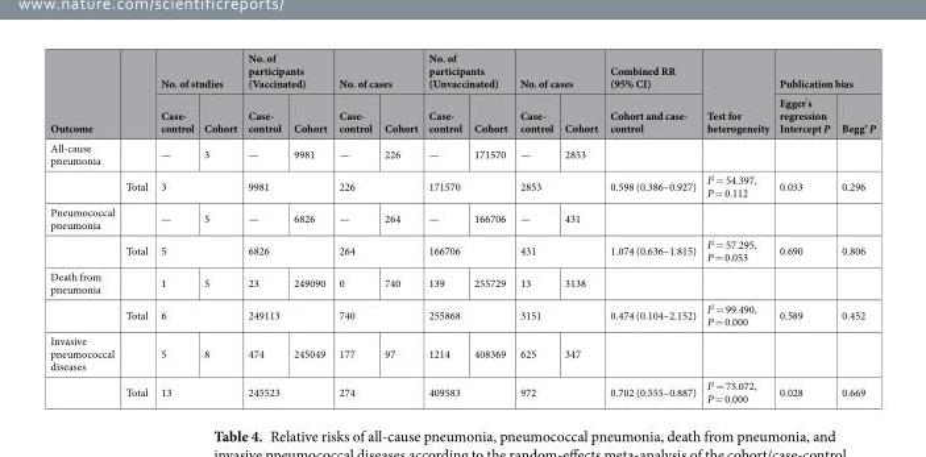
<table><thead><tr><td rowspan="2">Outcome</td><td rowspan="2"></td><td colspan="2">No. of studies</td><td colspan="2">No. of participants (Vaccinated)</td><td colspan="2">No. of cases</td><td colspan="2">No. of participants (Unvaccinated)</td><td colspan="2">No. of cases</td><td rowspan="2">Combined RR (95% CI) Cohort and case- control</td><td rowspan="2">Test for heterogeneity</td><td colspan="2">Publication bias</td></tr><tr><td>Case- control</td><td>Cohort</td><td>Case- control</td><td>Cohort</td><td>Case- control</td><td>Cohort</td><td>Case- control</td><td>Cohort</td><td>Case- control</td><td>Cohort</td><td>Egger<sup>’</sup>s regression Intercept P</td><td>Begg’ P</td></tr></thead><tbody><tr><td rowspan="2">All-cause pneumonia</td><td></td><td>—</td><td>3</td><td>—</td><td>9981</td><td>—</td><td>226</td><td>—</td><td>171570</td><td>—</td><td>2853</td><td></td><td></td><td></td><td></td></tr><tr><td>Total</td><td colspan="2">3</td><td colspan="2">9981</td><td colspan="2">226</td><td colspan="2">171570</td><td colspan="2">2853</td><td>0.598 (0.386–0.927)</td><td>I<sup>2</sup> = 54.397, P = 0.112</td><td>0.033</td><td>0.296</td></tr><tr><td rowspan="2">Pneumococcal pneumonia</td><td></td><td>—</td><td>5</td><td>—</td><td>6826</td><td>—</td><td>264</td><td>—</td><td>166706</td><td>—</td><td>431</td><td></td><td></td><td></td><td></td></tr><tr><td>Total</td><td colspan="2">5</td><td colspan="2">6826</td><td colspan="2">264</td><td colspan="2">166706</td><td colspan="2">431</td><td>1.074 (0.636–1.815)</td><td>I<sup>2</sup> = 57.295, P = 0.053</td><td>0.690</td><td>0.806</td></tr><tr><td rowspan="2">Death from pneumonia</td><td></td><td>1</td><td>5</td><td>23</td><td>249090</td><td>0</td><td>740</td><td>139</td><td>255729</td><td>13</td><td>3138</td><td></td><td></td><td></td><td></td></tr><tr><td>Total</td><td colspan="2">6</td><td colspan="2">249113</td><td colspan="2">740</td><td colspan="2">255868</td><td colspan="2">3151</td><td>0.474 (0.104–2.152)</td><td>I<sup>2</sup> = 99.490, P = 0.000</td><td>0.589</td><td>0.452</td></tr><tr><td rowspan="2">Invasive pneumococcal diseases</td><td></td><td>5</td><td>8</td><td>474</td><td>245049</td><td>177</td><td>97</td><td>1214</td><td>408369</td><td>625</td><td>347</td><td></td><td></td><td></td><td></td></tr><tr><td>Total</td><td colspan="2">13</td><td colspan="2">245523</td><td colspan="2">274</td><td colspan="2">409583</td><td colspan="2">972</td><td>0.702 (0.555–0.887)</td><td>I<sup>2</sup> = 75.072, P = 0.000</td><td>0.028</td><td>0.669</td></tr></tbody></table>